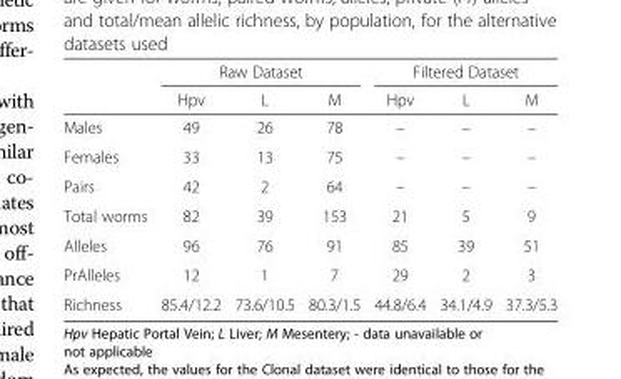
<table><thead><tr><td rowspan="2"></td><td colspan="3">Raw Dataset</td><td colspan="3">Filtered Dataset</td></tr><tr><td>Hpv</td><td>L</td><td>M</td><td>Hpv</td><td>L</td><td>M</td></tr></thead><tbody><tr><td>Males</td><td>49</td><td>26</td><td>78</td><td>–</td><td>–</td><td>–</td></tr><tr><td>Females</td><td>33</td><td>13</td><td>75</td><td>–</td><td>–</td><td>–</td></tr><tr><td>Pairs</td><td>42</td><td>2</td><td>64</td><td>–</td><td>–</td><td>–</td></tr><tr><td>Total worms</td><td>82</td><td>39</td><td>153</td><td>21</td><td>5</td><td>9</td></tr><tr><td>Alleles</td><td>96</td><td>76</td><td>91</td><td>85</td><td>39</td><td>51</td></tr><tr><td>PrAlleles</td><td>12</td><td>1</td><td>7</td><td>29</td><td>2</td><td>3</td></tr><tr><td>Richness</td><td>85.4/12.2</td><td>73.6/10.5</td><td>80.3/1.5</td><td>44.8/6.4</td><td>34.1/4.9</td><td>37.3/5.3</td></tr></tbody></table>